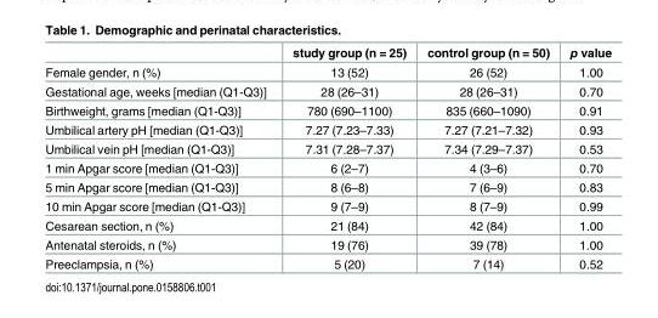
<table><thead><tr><td></td><td>study group (n = 25)</td><td>control group (n = 50)</td><td>p value</td></tr></thead><tbody><tr><td>Female gender, n (%)</td><td>13 (52)</td><td>26 (52)</td><td>1.00</td></tr><tr><td>Gestational age, weeks [median (Q1-Q3)]</td><td>28 (26–31)</td><td>28 (26–31)</td><td>0.70</td></tr><tr><td>Birthweight, grams [median (Q1-Q3)]</td><td>780 (690–1100)</td><td>835 (660–1090)</td><td>0.91</td></tr><tr><td>Umbilical artery pH [median (Q1-Q3)]</td><td>7.27 (7.23–7.33)</td><td>7.27 (7.21–7.32)</td><td>0.93</td></tr><tr><td>Umbilical vein pH [median (Q1-Q3)]</td><td>7.31 (7.28–7.37)</td><td>7.34 (7.29–7.37)</td><td>0.53</td></tr><tr><td>1 min Apgar score [median (Q1-Q3)]</td><td>6 (2–7)</td><td>4 (3–6)</td><td>0.70</td></tr><tr><td>5 min Apgar score [median (Q1-Q3)]</td><td>8 (6–8)</td><td>7 (6–9)</td><td>0.83</td></tr><tr><td>10 min Apgar score [median (Q1-Q3)]</td><td>9 (7–9)</td><td>8 (7–9)</td><td>0.99</td></tr><tr><td>Cesarean section, n (%)</td><td>21 (84)</td><td>42 (84)</td><td>1.00</td></tr><tr><td>Antenatal steroids, n (%)</td><td>19 (76)</td><td>39 (78)</td><td>1.00</td></tr><tr><td>Preeclampsia, n (%)</td><td>5 (20)</td><td>7 (14)</td><td>0.52</td></tr></tbody></table>